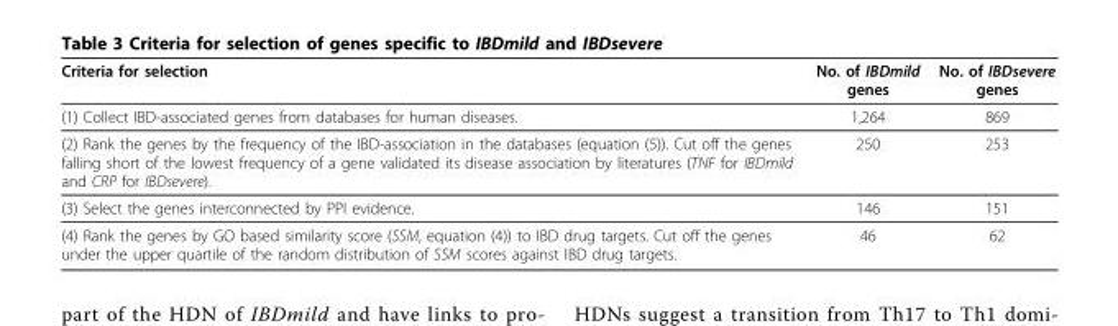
<table><thead><tr><td>Criteria for selection</td><td>No. of IBDmild genes</td><td>No. of IBDsevere genes</td></tr></thead><tbody><tr><td>(1) Collect IBD-associated genes from databases for human diseases.</td><td>1,264</td><td>869</td></tr><tr><td>(2) Rank the genes by the frequency of the IBD-association in the databases (equation (5)). Cut off the genes falling short of the lowest frequency of a gene validated its disease association by literatures (TNF for IBDmild and CRP for IBDsevere).</td><td>250</td><td>253</td></tr><tr><td>(3) Select the genes interconnected by PPI evidence.</td><td>146</td><td>151</td></tr><tr><td>(4) Rank the genes by GO based similarity score (SSM, equation (4)) to IBD drug targets. Cut off the genes under the upper quartile of the random distribution of SSM scores against IBD drug targets.</td><td>46</td><td>62</td></tr></tbody></table>